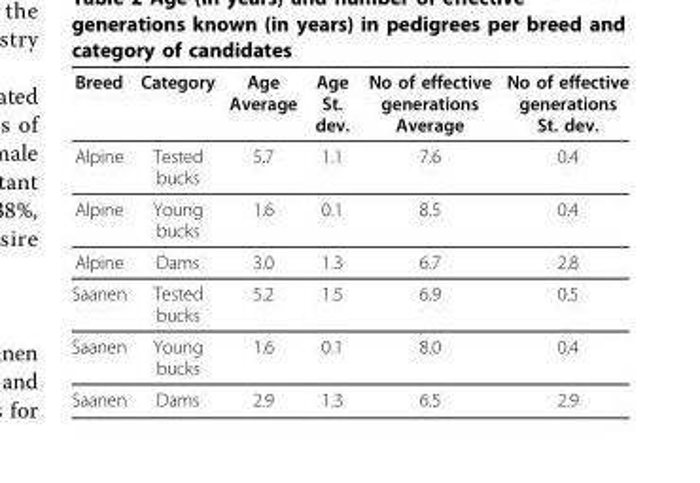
<table><thead><tr><td>Breed</td><td>Category</td><td>Age Average</td><td>Age St. dev.</td><td>No of effective generations Average</td><td>No of effective generations St. dev.</td></tr></thead><tbody><tr><td>Alpine</td><td>Tested bucks</td><td>5.7</td><td>1.1</td><td>7.6</td><td>0.4</td></tr><tr><td>Alpine</td><td>Young bucks</td><td>1.6</td><td>0.1</td><td>8.5</td><td>0.4</td></tr><tr><td>Alpine</td><td>Dams</td><td>3.0</td><td>1.3</td><td>6.7</td><td>2.8</td></tr><tr><td>Saanen</td><td>Tested bucks</td><td>5.2</td><td>1.5</td><td>6.9</td><td>0.5</td></tr><tr><td>Saanen</td><td>Young bucks</td><td>1.6</td><td>0.1</td><td>8.0</td><td>0.4</td></tr><tr><td>Saanen</td><td>Dams</td><td>2.9</td><td>1.3</td><td>6.5</td><td>2.9</td></tr></tbody></table>